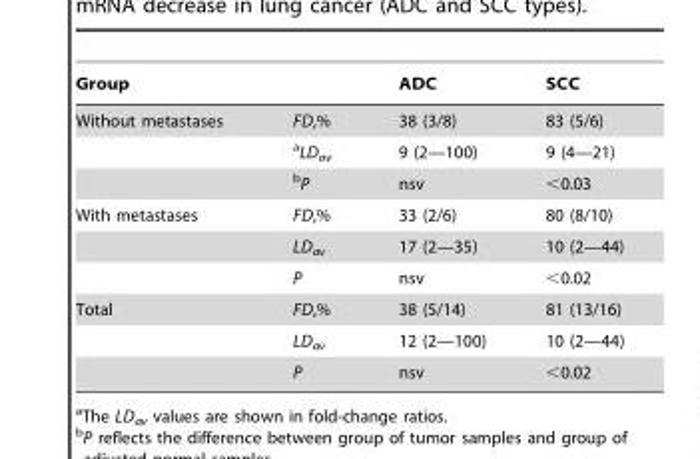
<table><thead><tr><td colspan="2">Group</td><td rowspan="2">ADC 38 (3/8)</td><td rowspan="2">SCC 83 (5/6)</td></tr><tr><td>Without metastases</td><td>FD,%</td></tr></thead><tbody><tr><td></td><td>aLD<sub>av</sub></td><td>9 (2—100)</td><td>9 (4—21)</td></tr><tr><td></td><td>bP</td><td>nsv</td><td>&lt;0.03</td></tr><tr><td rowspan="3">With metastases</td><td>FD,%</td><td>33 (2/6)</td><td>80 (8/10)</td></tr><tr><td>LD<sub>av</sub></td><td>17 (2—35)</td><td>10 (2—44)</td></tr><tr><td>P</td><td>nsv</td><td>&lt;0.02</td></tr><tr><td rowspan="3">Total</td><td>FD,%</td><td>38 (5/14)</td><td>81 (13/16)</td></tr><tr><td>LD<sub>av</sub></td><td>12 (2—100)</td><td>10 (2—44)</td></tr><tr><td>P</td><td>nsv</td><td>&lt;0.02</td></tr></tbody></table>